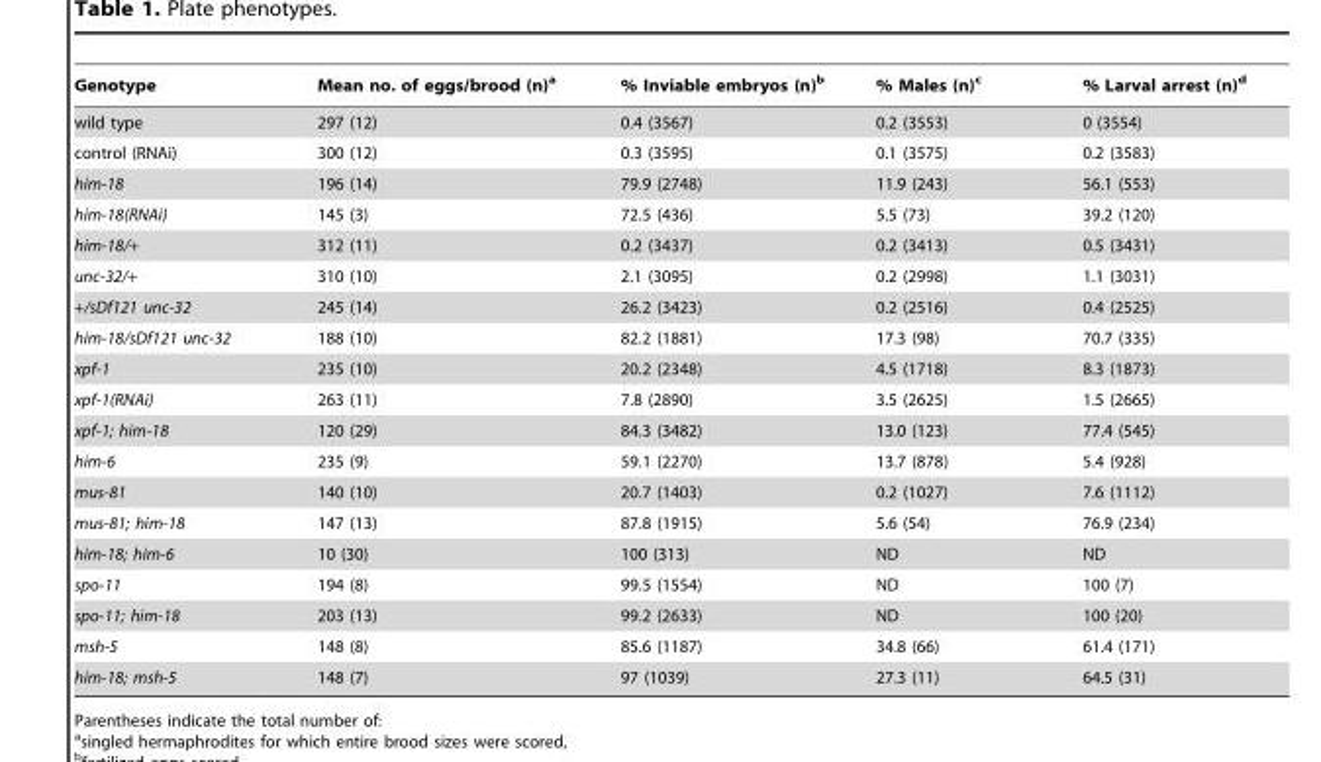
<table><thead><tr><td>Genotype</td><td>Mean no. of eggs/brood (n)<sup>a</sup></td><td>% Inviable embryos (n)<sup>b</sup></td><td>% Males (n)<sup>c</sup></td><td>% Larval arrest (n)<sup>d</sup></td></tr></thead><tbody><tr><td>wild type</td><td>297 (12)</td><td>0.4 (3567)</td><td>0.2 (3553)</td><td>0 (3554)</td></tr><tr><td>control (RNAi)</td><td>300 (12)</td><td>0.3 (3595)</td><td>0.1 (3575)</td><td>0.2 (3583)</td></tr><tr><td>him-18</td><td>196 (14)</td><td>79.9 (2748)</td><td>11.9 (243)</td><td>56.1 (553)</td></tr><tr><td>him-18(RNAi)</td><td>145 (3)</td><td>72.5 (436)</td><td>5.5 (73)</td><td>39.2 (120)</td></tr><tr><td>him-18/+</td><td>312 (11)</td><td>0.2 (3437)</td><td>0.2 (3413)</td><td>0.5 (3431)</td></tr><tr><td>unc-32/+</td><td>310 (10)</td><td>2.1 (3095)</td><td>0.2 (2998)</td><td>1.1 (3031)</td></tr><tr><td>+/sDf121 unc-32</td><td>245 (14)</td><td>26.2 (3423)</td><td>0.2 (2516)</td><td>0.4 (2525)</td></tr><tr><td>him-18/sDf121 unc-32</td><td>188 (10)</td><td>82.2 (1881)</td><td>17.3 (98)</td><td>70.7 (335)</td></tr><tr><td>xpf-1</td><td>235 (10)</td><td>20.2 (2348)</td><td>4.5 (1718)</td><td>8.3 (1873)</td></tr><tr><td>xpf-1(RNAi)</td><td>263 (11)</td><td>7.8 (2890)</td><td>3.5 (2625)</td><td>1.5 (2665)</td></tr><tr><td>xpf-1; him-18</td><td>120 (29)</td><td>84.3 (3482)</td><td>13.0 (123)</td><td>77.4 (545)</td></tr><tr><td>him-6</td><td>235 (9)</td><td>59.1 (2270)</td><td>13.7 (878)</td><td>5.4 (928)</td></tr><tr><td>mus-81</td><td>140 (10)</td><td>20.7 (1403)</td><td>0.2 (1027)</td><td>7.6 (1112)</td></tr><tr><td>mus-81; him-18</td><td>147 (13)</td><td>87.8 (1915)</td><td>5.6 (54)</td><td>76.9 (234)</td></tr><tr><td>him-18; him-6</td><td>10 (30)</td><td>100 (313)</td><td>ND</td><td>ND</td></tr><tr><td>spo-11</td><td>194 (8)</td><td>99.5 (1554)</td><td>ND</td><td>100 (7)</td></tr><tr><td>spo-11; him-18</td><td>203 (13)</td><td>99.2 (2633)</td><td>ND</td><td>100 (20)</td></tr><tr><td>msh-5</td><td>148 (8)</td><td>85.6 (1187)</td><td>34.8 (66)</td><td>61.4 (171)</td></tr><tr><td>him-18; msh-5</td><td>148 (7)</td><td>97 (1039)</td><td>27.3 (11)</td><td>64.5 (31)</td></tr></tbody></table>